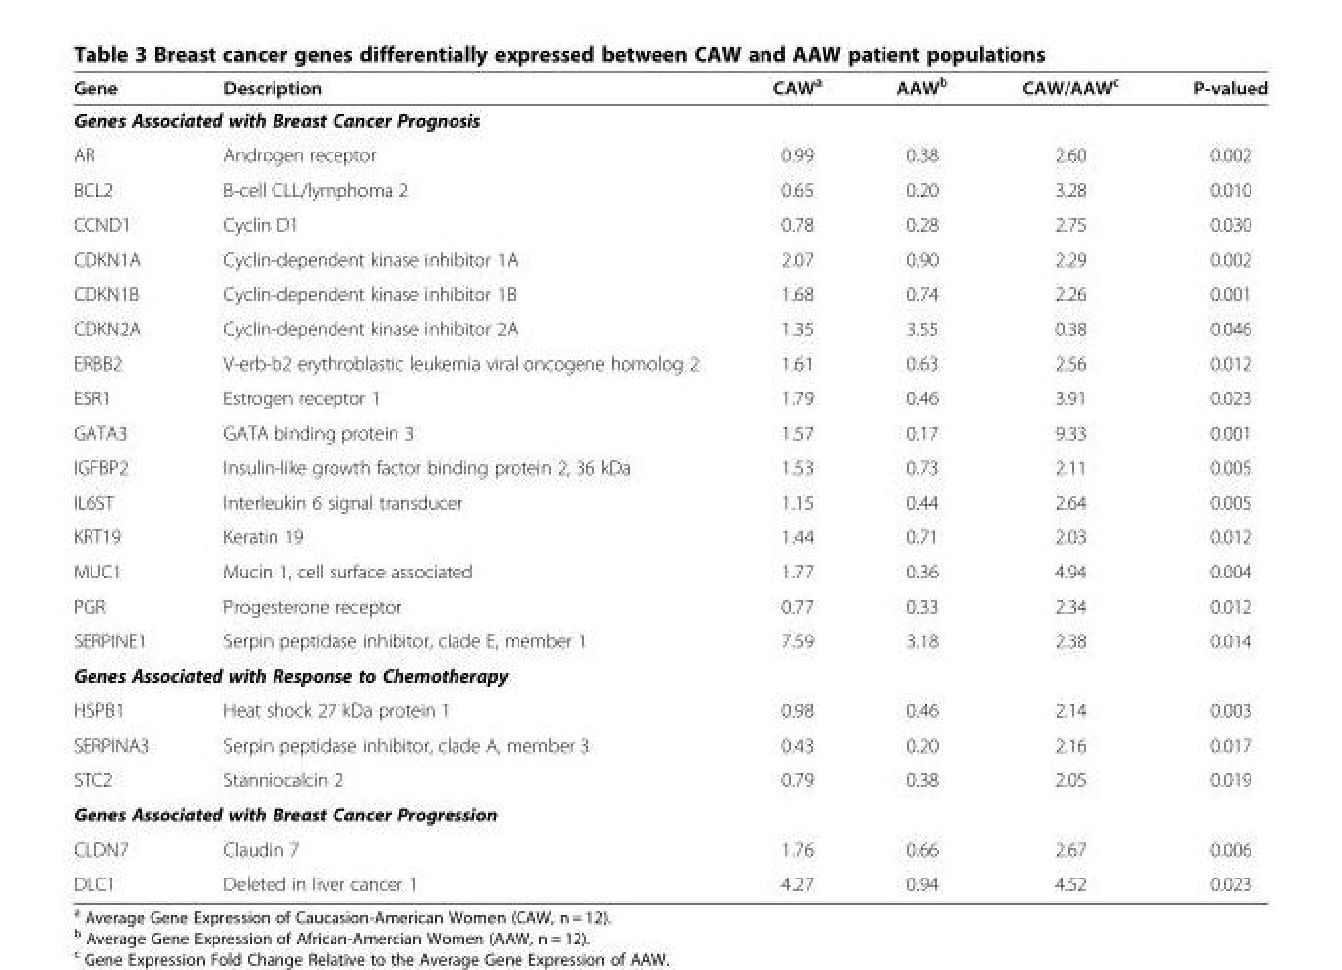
<table><thead><tr><td>Gene</td><td>Description</td><td>CAW<sup>a</sup></td><td>AAW<sup>b</sup></td><td>CAW/AAW<sup>c</sup></td><td>P-valued</td></tr></thead><tbody><tr><td colspan="6">Genes Associated with Breast Cancer Prognosis</td></tr><tr><td>AR</td><td>Androgen receptor</td><td>0.99</td><td>0.38</td><td>2.60</td><td>0.002</td></tr><tr><td>BCL2</td><td>B-cell CLL/lymphoma 2</td><td>0.65</td><td>0.20</td><td>3.28</td><td>0.010</td></tr><tr><td>CCND1</td><td>Cyclin D1</td><td>0.78</td><td>0.28</td><td>2.75</td><td>0.030</td></tr><tr><td>CDKN1A</td><td>Cyclin-dependent kinase inhibitor 1A</td><td>2.07</td><td>0.90</td><td>2.29</td><td>0.002</td></tr><tr><td>CDKN1B</td><td>Cyclin-dependent kinase inhibitor 1B</td><td>1.68</td><td>0.74</td><td>2.26</td><td>0.001</td></tr><tr><td>CDKN2A</td><td>Cyclin-dependent kinase inhibitor 2A</td><td>1.35</td><td>3.55</td><td>0.38</td><td>0.046</td></tr><tr><td>ERBB2</td><td>V-erb-b2 erythroblastic leukemia viral oncogene homolog 2</td><td>1.61</td><td>0.63</td><td>2.56</td><td>0.012</td></tr><tr><td>ESR1</td><td>Estrogen receptor 1</td><td>1.79</td><td>0.46</td><td>3.91</td><td>0.023</td></tr><tr><td>GATA3</td><td>GATA binding protein 3</td><td>1.57</td><td>0.17</td><td>9.33</td><td>0.001</td></tr><tr><td>IGFBP2</td><td>Insulin-like growth factor binding protein 2, 36 kDa</td><td>1.53</td><td>0.73</td><td>2.11</td><td>0.005</td></tr><tr><td>IL6ST</td><td>Interleukin 6 signal transducer</td><td>1.15</td><td>0.44</td><td>2.64</td><td>0.005</td></tr><tr><td>KRT19</td><td>Keratin 19</td><td>1.44</td><td>0.71</td><td>2.03</td><td>0.012</td></tr><tr><td>MUC1</td><td>Mucin 1, cell surface associated</td><td>1.77</td><td>0.36</td><td>4.94</td><td>0.004</td></tr><tr><td>PGR</td><td>Progesterone receptor</td><td>0.77</td><td>0.33</td><td>2.34</td><td>0.012</td></tr><tr><td>SERPINE1</td><td>Serpin peptidase inhibitor, clade E, member 1</td><td>7.59</td><td>3.18</td><td>2.38</td><td>0.014</td></tr><tr><td colspan="6">Genes Associated with Response to Chemotherapy</td></tr><tr><td>HSPB1</td><td>Heat shock 27 kDa protein 1</td><td>0.98</td><td>0.46</td><td>2.14</td><td>0.003</td></tr><tr><td>SERPINA3</td><td>Serpin peptidase inhibitor, clade A, member 3</td><td>0.43</td><td>0.20</td><td>2.16</td><td>0.017</td></tr><tr><td>STC2</td><td>Stanniocalcin 2</td><td>0.79</td><td>0.38</td><td>2.05</td><td>0.019</td></tr><tr><td colspan="6">Genes Associated with Breast Cancer Progression</td></tr><tr><td>CLDN7</td><td>Claudin 7</td><td>1.76</td><td>0.66</td><td>2.67</td><td>0.006</td></tr><tr><td>DLC1</td><td>Deleted in liver cancer 1</td><td>4.27</td><td>0.94</td><td>4.52</td><td>0.023</td></tr></tbody></table>